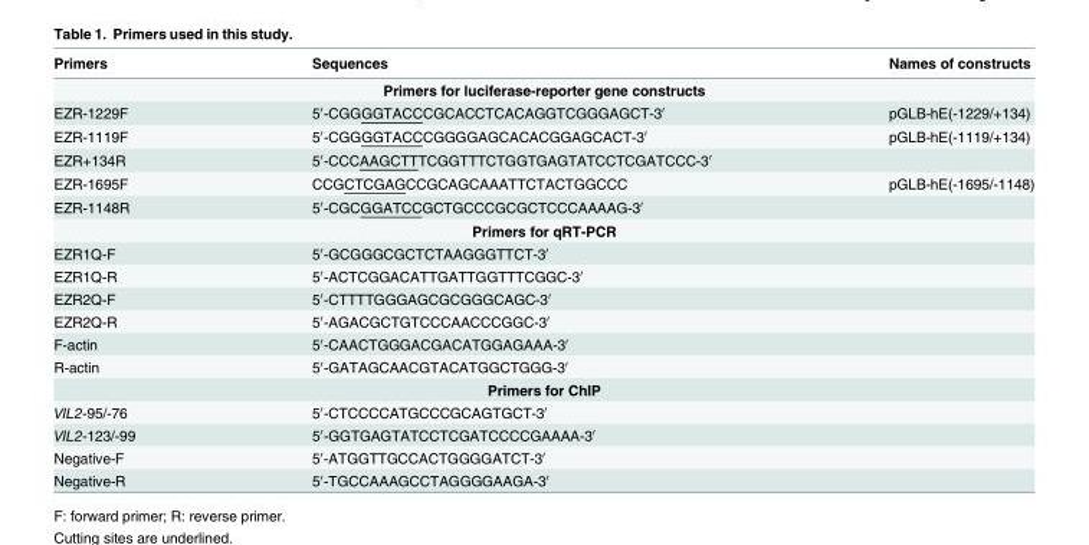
<table><thead><tr><td>Primers</td><td>Sequences</td><td>Names of constructs</td></tr></thead><tbody><tr><td colspan="3">Primers for luciferase-reporter gene constructs</td></tr><tr><td>EZR-1229F</td><td>5′-CGGGGTACCCGCACCTCACAGGTCGGGAGCT-3′</td><td>pGLB-hE(-1229/+134)</td></tr><tr><td>EZR-1119F</td><td>5′-CGGGGTACCCGGGGAGCACACGGAGCACT-3′</td><td>pGLB-hE(-1119/+134)</td></tr><tr><td>EZR+134R</td><td>5′-CCCAAGCTTTCGGTTTCTGGTGAGTATCCTCGATCCC-3′</td><td></td></tr><tr><td>EZR-1695F</td><td>CCGCTCGAGCCGCAGCAAATTCTACTGGCCC</td><td>pGLB-hE(-1695/-1148)</td></tr><tr><td>EZR-1148R</td><td>5′-CGCGGATCCGCTGCCCGCGCTCCCAAAAG-3′</td><td></td></tr><tr><td colspan="3">Primers for qRT-PCR</td></tr><tr><td>EZR1Q-F</td><td>5′-GCGGGCGCTCTAAGGGTTCT-3′</td><td></td></tr><tr><td>EZR1Q-R</td><td>5′-ACTCGGACATTGATTGGTTTCGGC-3′</td><td></td></tr><tr><td>EZR2Q-F</td><td>5′-CTTTTGGGAGCGCGGGCAGC-3′</td><td></td></tr><tr><td>EZR2Q-R</td><td>5′-AGACGCTGTCCCAACCCGGC-3′</td><td></td></tr><tr><td>F-actin</td><td>5′-CAACTGGGACGACATGGAGAAA-3′</td><td></td></tr><tr><td>R-actin</td><td>5′-GATAGCAACGTACATGGCTGGG-3′</td><td></td></tr><tr><td colspan="3">Primers for ChIP</td></tr><tr><td>VIL2-95/-76</td><td>5′-CTCCCCATGCCCGCAGTGCT-3′</td><td></td></tr><tr><td>VIL2-123/-99</td><td>5′-GGTGAGTATCCTCGATCCCCGAAAA-3′</td><td></td></tr><tr><td>Negative-F</td><td>5′-ATGGTTGCCACTGGGGATCT-3′</td><td></td></tr><tr><td>Negative-R</td><td>5′-TGCCAAAGCCTAGGGGAAGA-3′</td><td></td></tr></tbody></table>